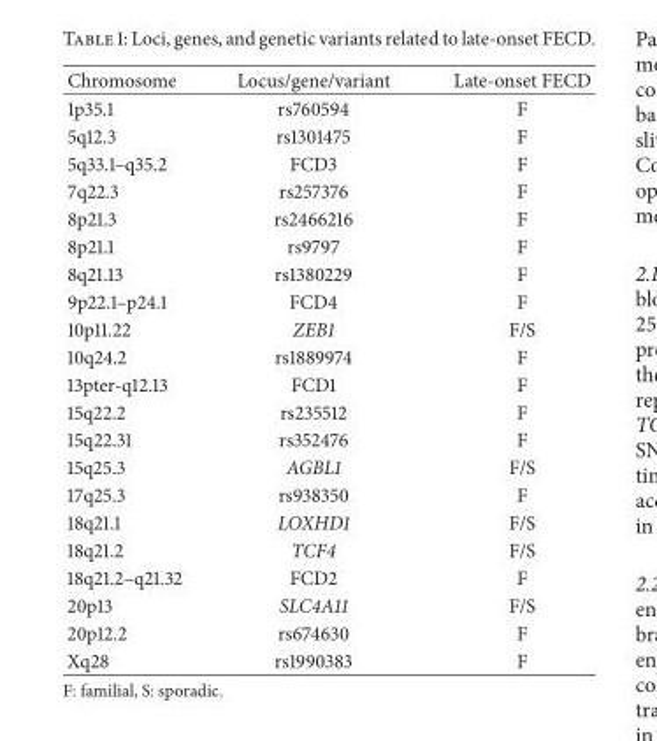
<table><thead><tr><td>Chromosome</td><td>Locus/gene/variant</td><td>Late-onset FECD</td></tr></thead><tbody><tr><td>1p35.1</td><td>rs760594</td><td>F</td></tr><tr><td>5q12.3</td><td>rs1301475</td><td>F</td></tr><tr><td>5q33.1–q35.2</td><td>FCD3</td><td>F</td></tr><tr><td>7q22.3</td><td>rs257376</td><td>F</td></tr><tr><td>8p21.3</td><td>rs2466216</td><td>F</td></tr><tr><td>8p21.1</td><td>rs9797</td><td>F</td></tr><tr><td>8q21.13</td><td>rs1380229</td><td>F</td></tr><tr><td>9p22.1–p24.1</td><td>FCD4</td><td>F</td></tr><tr><td>10p11.22</td><td>ZEB1</td><td>F/S</td></tr><tr><td>10q24.2</td><td>rs1889974</td><td>F</td></tr><tr><td>13pter-q12.13</td><td>FCD1</td><td>F</td></tr><tr><td>15q22.2</td><td>rs235512</td><td>F</td></tr><tr><td>15q22.31</td><td>rs352476</td><td>F</td></tr><tr><td>15q25.3</td><td>AGBL1</td><td>F/S</td></tr><tr><td>17q25.3</td><td>rs938350</td><td>F</td></tr><tr><td>18q21.1</td><td>LOXHD1</td><td>F/S</td></tr><tr><td>18q21.2</td><td>TCF4</td><td>F/S</td></tr><tr><td>18q21.2–q21.32</td><td>FCD2</td><td>F</td></tr><tr><td>20p13</td><td>SLC4A11</td><td>F/S</td></tr><tr><td>20p12.2</td><td>rs674630</td><td>F</td></tr><tr><td>Xq28</td><td>rs1990383</td><td>F</td></tr></tbody></table>